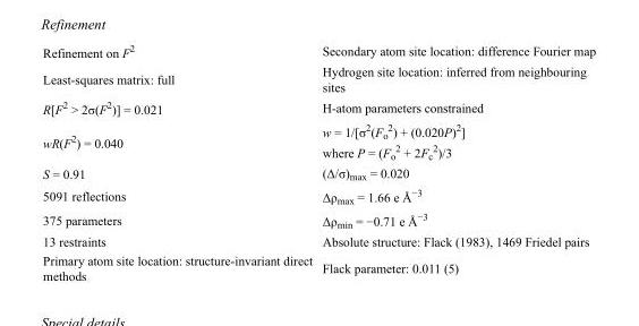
<table><tbody><tr><td>Refinement on F<sup>2</sup></td><td>Secondary atom site location: difference Fourier map</td></tr><tr><td>Least-squares matrix: full</td><td>Hydrogen site location: inferred from neighbouring sites</td></tr><tr><td>R[F<sup>2</sup> &gt; 2σ(F<sup>2</sup>)] = 0.021</td><td>H-atom parameters constrained</td></tr><tr><td>wR(F<sup>2</sup>) = 0.040</td><td>w = 1/[σ<sup>2</sup>(F<sub>o</sub> <sup>2</sup>) + (0.020P)<sup>2</sup>] where P = (F<sub>o</sub> <sup>2</sup> + 2F<sub>c</sub> <sup>2</sup>)/3</td></tr><tr><td>S = 0.91</td><td>(Δ/σ)<sub>max</sub> = 0.020</td></tr><tr><td>5091 reflections</td><td>Δρ<sub>max</sub> = 1.66 e Å<sup>−3</sup></td></tr><tr><td>375 parameters</td><td>Δρ<sub>min</sub> = −0.71 e Å<sup>−3</sup></td></tr><tr><td>13 restraints</td><td>Absolute structure: Flack (1983), 1469 Friedel pairs</td></tr><tr><td>Primary atom site location: structure-invariant direct methods</td><td>Flack parameter: 0.011 (5)</td></tr></tbody></table>